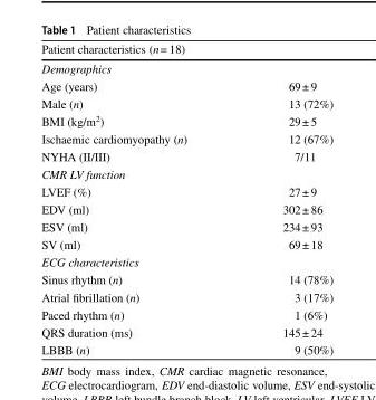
<table><thead><tr><td rowspan="2" colspan="2">Patient characteristics (n= 18) Demographics</td></tr><tr></tr><tr><td>Age (years)</td><td>69± 9</td></tr></thead><tbody><tr><td>Male (n)</td><td>13 (72%)</td></tr><tr><td>BMI (kg/m<sup>2</sup>)</td><td>29± 5</td></tr><tr><td>Ischaemic cardiomyopathy (n)</td><td>12 (67%)</td></tr><tr><td>NYHA (II/III)</td><td>7/11</td></tr><tr><td colspan="2">CMR LV function</td></tr><tr><td>LVEF (%)</td><td>27± 9</td></tr><tr><td>EDV (ml)</td><td>302± 86</td></tr><tr><td>ESV (ml)</td><td>234± 93</td></tr><tr><td>SV (ml)</td><td>69± 18</td></tr><tr><td colspan="2">ECG characteristics</td></tr><tr><td>Sinus rhythm (n)</td><td>14 (78%)</td></tr><tr><td>Atrial fibrillation (n)</td><td>3 (17%)</td></tr><tr><td>Paced rhythm (n)</td><td>1 (6%)</td></tr><tr><td>QRS duration (ms)</td><td>145± 24</td></tr><tr><td>LBBB (n)</td><td>9 (50%)</td></tr></tbody></table>